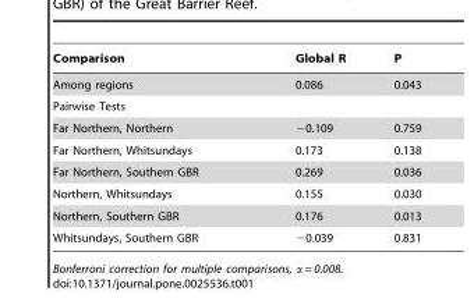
<table><thead><tr><td>Comparison</td><td>Global R</td><td>P</td></tr></thead><tbody><tr><td>Among regions</td><td>0.086</td><td>0.043</td></tr><tr><td colspan="3">Pairwise Tests</td></tr><tr><td>Far Northern, Northern</td><td>−0.109</td><td>0.759</td></tr><tr><td>Far Northern, Whitsundays</td><td>0.173</td><td>0.138</td></tr><tr><td>Far Northern, Southern GBR</td><td>0.269</td><td>0.036</td></tr><tr><td>Northern, Whitsundays</td><td>0.155</td><td>0.030</td></tr><tr><td>Northern, Southern GBR</td><td>0.176</td><td>0.013</td></tr><tr><td>Whitsundays, Southern GBR</td><td>−0.039</td><td>0.831</td></tr></tbody></table>